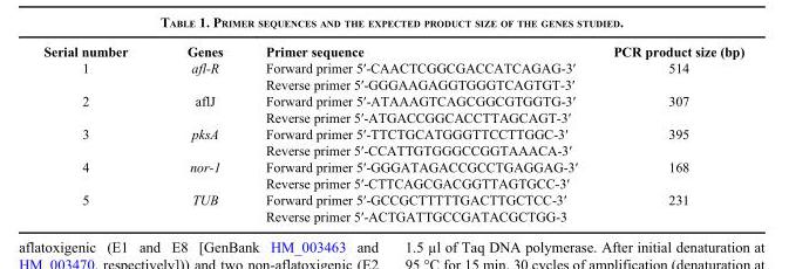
<table><thead><tr><td>Serial number</td><td>Genes</td><td>Primer sequence</td><td>PCR product size (bp)</td></tr></thead><tbody><tr><td rowspan="2">1</td><td>afl-R</td><td>Forward primer 5′-CAACTCGGCGACCATCAGAG-3′</td><td>514</td></tr><tr><td></td><td>Reverse primer 5′-GGGAAGAGGTGGGTCAGTGT-3′</td><td></td></tr><tr><td rowspan="2">2</td><td>aflJ</td><td>Forward primer 5′-ATAAAGTCAGCGGCGTGGTG-3′</td><td>307</td></tr><tr><td></td><td>Reverse primer 5′-ATGACCGGCACCTTAGCAGT-3′</td><td></td></tr><tr><td rowspan="2">3</td><td>pksA</td><td>Forward primer 5′-TTCTGCATGGGTTCCTTGGC-3′</td><td>395</td></tr><tr><td></td><td>Reverse primer 5′-CCATTGTGGGCCGGTAAACA-3′</td><td></td></tr><tr><td rowspan="2">4</td><td>nor-1</td><td>Forward primer 5′-GGGATAGACCGCCTGAGGAG-3′</td><td>168</td></tr><tr><td></td><td>Reverse primer 5′-CTTCAGCGACGGTTAGTGCC-3′</td><td></td></tr><tr><td rowspan="2">5</td><td>TUB</td><td>Forward primer 5′-GCCGCTTTTTGACTTGCTCC-3′</td><td>231</td></tr><tr><td></td><td>Reverse primer 5′-ACTGATTGCCGATACGCTGG-3</td><td></td></tr></tbody></table>